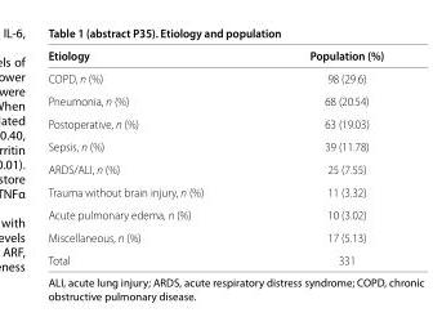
<table><thead><tr><td>Etiology</td><td>Population (%)</td></tr></thead><tbody><tr><td>COPD, n (%)</td><td>98 (29.6)</td></tr><tr><td>Pneumonia, n (%)</td><td>68 (20.54)</td></tr><tr><td>Postoperative, n (%)</td><td>63 (19.03)</td></tr><tr><td>Sepsis, n (%)</td><td>39 (11.78)</td></tr><tr><td>ARDS/ALI, n (%)</td><td>25 (7.55)</td></tr><tr><td>Trauma without brain injury, n (%)</td><td>11 (3.32)</td></tr><tr><td>Acute pulmonary edema, n (%)</td><td>10 (3.02)</td></tr><tr><td>Miscellaneous, n (%)</td><td>17 (5.13)</td></tr><tr><td>Total</td><td>331</td></tr></tbody></table>